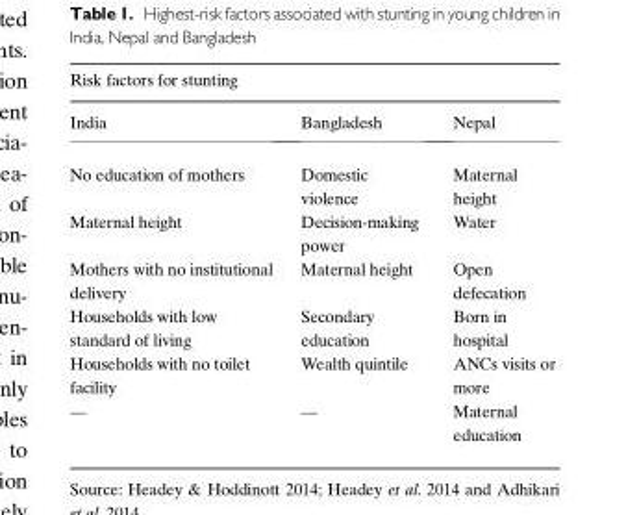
<table><thead><tr><td colspan="3">Risk factors for stunting</td></tr><tr><td>India</td><td>Bangladesh</td><td>Nepal</td></tr></thead><tbody><tr><td>No education of mothers</td><td>Domestic violence</td><td>Maternal height</td></tr><tr><td>Maternal height</td><td>Decision-making power</td><td>Water</td></tr><tr><td>Mothers with no institutional delivery</td><td>Maternal height</td><td>Open defecation</td></tr><tr><td>Households with low standard of living</td><td>Secondary education</td><td>Born in hospital</td></tr><tr><td>Households with no toilet facility</td><td>Wealth quintile</td><td>ANCs visits or more</td></tr><tr><td>—</td><td>—</td><td>Maternal education</td></tr></tbody></table>